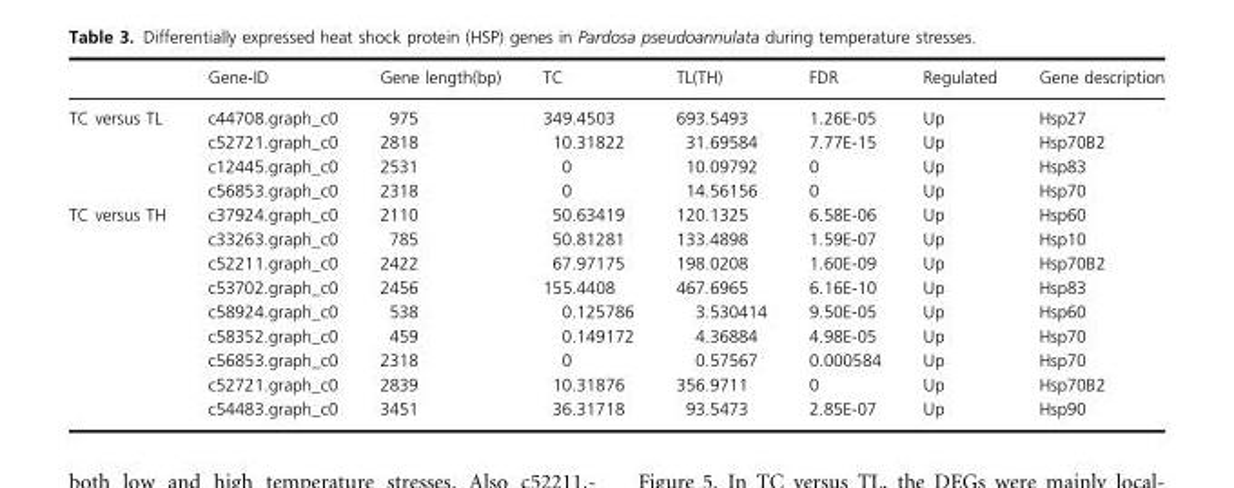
<table><thead><tr><td></td><td>Gene-ID</td><td>Gene length(bp)</td><td>TC</td><td>TL(TH)</td><td>FDR</td><td>Regulated</td><td>Gene description</td></tr></thead><tbody><tr><td rowspan="4">TC versus TL</td><td>c44708.graph_c0</td><td>975</td><td>349.4503</td><td>693.5493</td><td>1.26E-05</td><td>Up</td><td>Hsp27</td></tr><tr><td>c52721.graph_c0</td><td>2818</td><td>10.31822</td><td>31.69584</td><td>7.77E-15</td><td>Up</td><td>Hsp70B2</td></tr><tr><td>c12445.graph_c0</td><td>2531</td><td>0</td><td>10.09792</td><td>0</td><td>Up</td><td>Hsp83</td></tr><tr><td>c56853.graph_c0</td><td>2318</td><td>0</td><td>14.56156</td><td>0</td><td>Up</td><td>Hsp70</td></tr><tr><td rowspan="9">TC versus TH</td><td>c37924.graph_c0</td><td>2110</td><td>50.63419</td><td>120.1325</td><td>6.58E-06</td><td>Up</td><td>Hsp60</td></tr><tr><td>c33263.graph_c0</td><td>785</td><td>50.81281</td><td>133.4898</td><td>1.59E-07</td><td>Up</td><td>Hsp10</td></tr><tr><td>c52211.graph_c0</td><td>2422</td><td>67.97175</td><td>198.0208</td><td>1.60E-09</td><td>Up</td><td>Hsp70B2</td></tr><tr><td>c53702.graph_c0</td><td>2456</td><td>155.4408</td><td>467.6965</td><td>6.16E-10</td><td>Up</td><td>Hsp83</td></tr><tr><td>c58924.graph_c0</td><td>538</td><td>0.125786</td><td>3.530414</td><td>9.50E-05</td><td>Up</td><td>Hsp60</td></tr><tr><td>c58352.graph_c0</td><td>459</td><td>0.149172</td><td>4.36884</td><td>4.98E-05</td><td>Up</td><td>Hsp70</td></tr><tr><td>c56853.graph_c0</td><td>2318</td><td>0</td><td>0.57567</td><td>0.000584</td><td>Up</td><td>Hsp70</td></tr><tr><td>c52721.graph_c0</td><td>2839</td><td>10.31876</td><td>356.9711</td><td>0</td><td>Up</td><td>Hsp70B2</td></tr><tr><td>c54483.graph_c0</td><td>3451</td><td>36.31718</td><td>93.5473</td><td>2.85E-07</td><td>Up</td><td>Hsp90</td></tr></tbody></table>